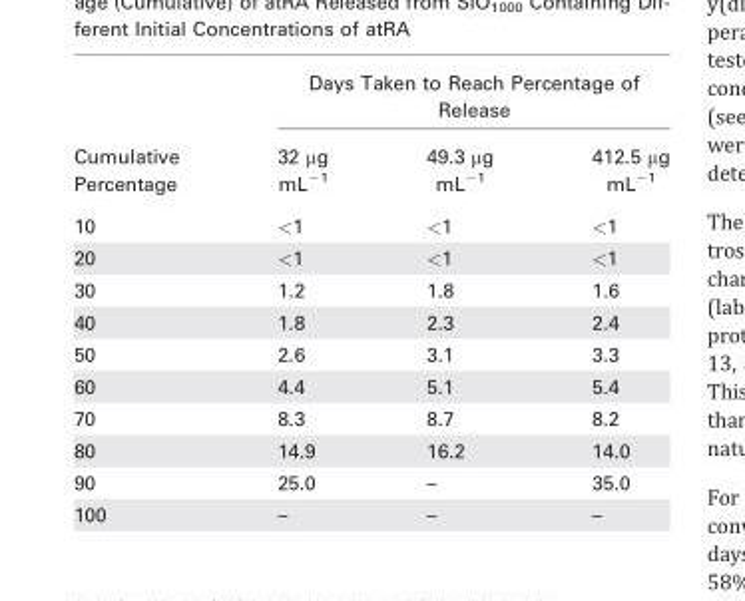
<table><thead><tr><td rowspan="2">Cumulative Percentage</td><td colspan="3">Days Taken to Reach Percentage of Release</td></tr><tr><td>32 µg mL<sup>−1</sup></td><td>49.3 µg mL<sup>−1</sup></td><td>412.5 µg mL<sup>−1</sup></td></tr></thead><tbody><tr><td>10</td><td>&lt;1</td><td>&lt;1</td><td>&lt;1</td></tr><tr><td>20</td><td>&lt;1</td><td>&lt;1</td><td>&lt;1</td></tr><tr><td>30</td><td>1.2</td><td>1.8</td><td>1.6</td></tr><tr><td>40</td><td>1.8</td><td>2.3</td><td>2.4</td></tr><tr><td>50</td><td>2.6</td><td>3.1</td><td>3.3</td></tr><tr><td>60</td><td>4.4</td><td>5.1</td><td>5.4</td></tr><tr><td>70</td><td>8.3</td><td>8.7</td><td>8.2</td></tr><tr><td>80</td><td>14.9</td><td>16.2</td><td>14.0</td></tr><tr><td>90</td><td>25.0</td><td>–</td><td>35.0</td></tr><tr><td>100</td><td>–</td><td>–</td><td>–</td></tr></tbody></table>